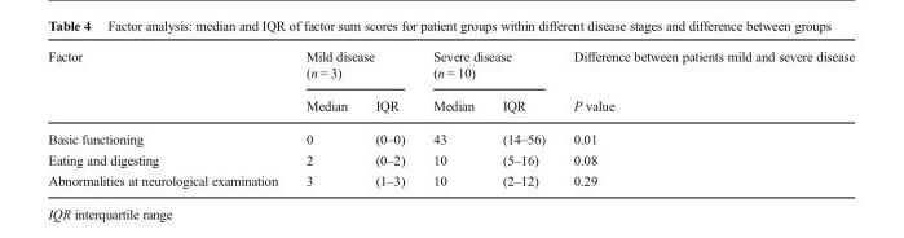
<table><thead><tr><td rowspan="2">Factor</td><td colspan="2">Mild disease (n = 3)</td><td colspan="2">Severe disease (n = 10)</td><td rowspan="2">Difference between patients mild and severe disease P value</td></tr><tr><td>Median</td><td>IQR</td><td>Median</td><td>IQR</td></tr></thead><tbody><tr><td>Basic functioning</td><td>0</td><td>(0–0)</td><td>43</td><td>(14–56)</td><td>0.01</td></tr><tr><td>Eating and digesting</td><td>2</td><td>(0–2)</td><td>10</td><td>(5–16)</td><td>0.08</td></tr><tr><td>Abnormalities at neurological examination</td><td>3</td><td>(1–3)</td><td>10</td><td>(2–12)</td><td>0.29</td></tr></tbody></table>